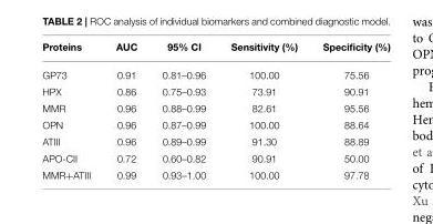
<table><thead><tr><td>Proteins</td><td>AUC</td><td>95% CI</td><td>Sensitivity (%)</td><td>Specificity (%)</td></tr></thead><tbody><tr><td>GP73</td><td>0.91</td><td>0.81–0.96</td><td>100.00</td><td>75.56</td></tr><tr><td>HPX</td><td>0.86</td><td>0.75–0.93</td><td>73.91</td><td>90.91</td></tr><tr><td>MMR</td><td>0.96</td><td>0.88–0.99</td><td>82.61</td><td>95.56</td></tr><tr><td>OPN</td><td>0.96</td><td>0.87–0.99</td><td>100.00</td><td>88.64</td></tr><tr><td>ATIII</td><td>0.96</td><td>0.89–0.99</td><td>91.30</td><td>88.89</td></tr><tr><td>APO-CII</td><td>0.72</td><td>0.60–0.82</td><td>90.91</td><td>50.00</td></tr><tr><td>MMR+ATIII</td><td>0.99</td><td>0.93–1.00</td><td>100.00</td><td>97.78</td></tr></tbody></table>